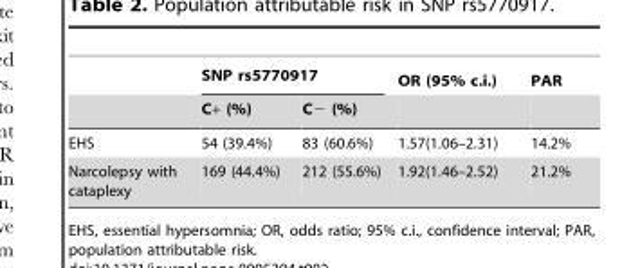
<table><thead><tr><td rowspan="2"></td><td colspan="2">SNP rs5770917</td><td rowspan="2">OR (95% c.i.)</td><td rowspan="2">PAR</td></tr><tr><td>C+ (%)</td><td>C− (%)</td></tr></thead><tbody><tr><td>EHS</td><td>54 (39.4%)</td><td>83 (60.6%)</td><td>1.57(1.06–2.31)</td><td>14.2%</td></tr><tr><td>Narcolepsy with cataplexy</td><td>169 (44.4%)</td><td>212 (55.6%)</td><td>1.92(1.46–2.52)</td><td>21.2%</td></tr></tbody></table>